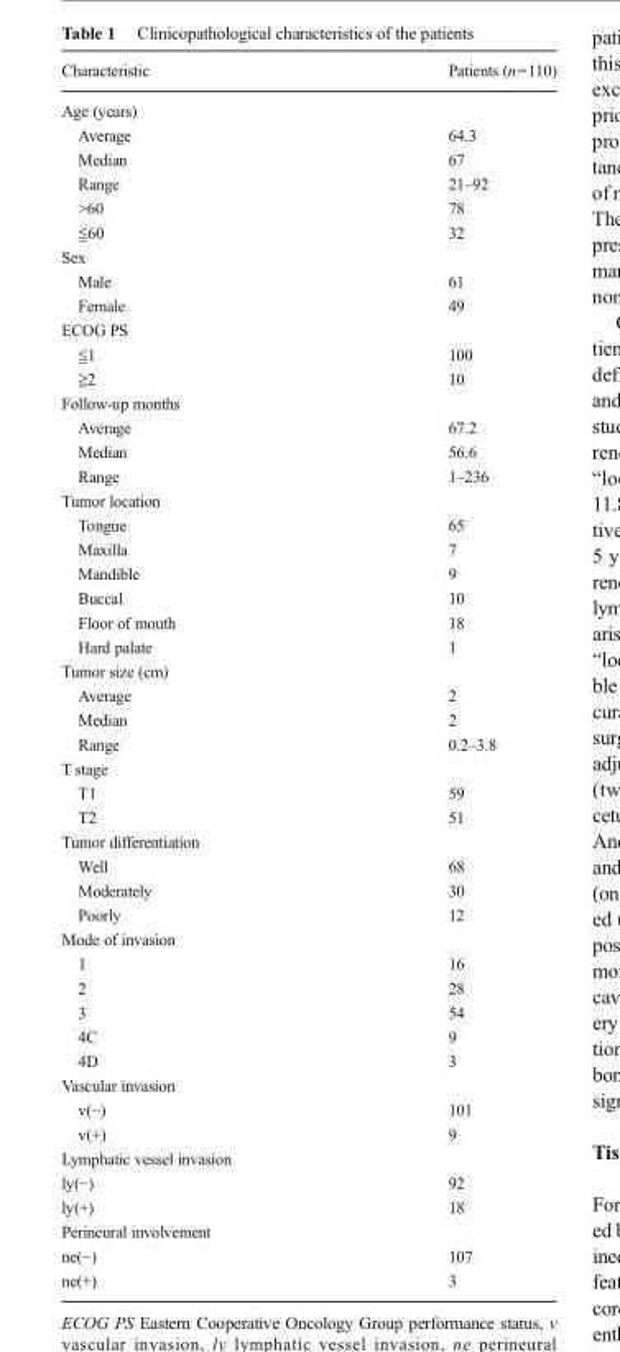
<table><thead><tr><td>Characteristic</td><td>Patients (n=110)</td></tr></thead><tbody><tr><td colspan="2">Age (years)</td></tr><tr><td>Average</td><td>64.3</td></tr><tr><td>Median</td><td>67</td></tr><tr><td>Range</td><td>21–92</td></tr><tr><td>&gt;60</td><td>78</td></tr><tr><td>≦60</td><td>32</td></tr><tr><td colspan="2">Sex</td></tr><tr><td>Male</td><td>61</td></tr><tr><td>Female</td><td>49</td></tr><tr><td colspan="2">ECOG PS</td></tr><tr><td>≦1</td><td>100</td></tr><tr><td>≧2</td><td>10</td></tr><tr><td colspan="2">Follow-up months</td></tr><tr><td>Average</td><td>67.2</td></tr><tr><td>Median</td><td>56.6</td></tr><tr><td>Range</td><td>1–236</td></tr><tr><td colspan="2">Tumor location</td></tr><tr><td>Tongue</td><td>65</td></tr><tr><td>Maxilla</td><td>7</td></tr><tr><td>Mandible</td><td>9</td></tr><tr><td>Buccal</td><td>10</td></tr><tr><td>Floor of mouth</td><td>18</td></tr><tr><td>Hard palate</td><td>1</td></tr><tr><td colspan="2">Tumor size (cm)</td></tr><tr><td>Average</td><td>2</td></tr><tr><td>Median</td><td>2</td></tr><tr><td>Range</td><td>0.2–3.8</td></tr><tr><td colspan="2">T stage</td></tr><tr><td>T1</td><td>59</td></tr><tr><td>T2</td><td>51</td></tr><tr><td colspan="2">Tumor differentiation</td></tr><tr><td>Well</td><td>68</td></tr><tr><td>Moderately</td><td>30</td></tr><tr><td>Poorly</td><td>12</td></tr><tr><td colspan="2">Mode of invasion</td></tr><tr><td>1</td><td>16</td></tr><tr><td>2</td><td>28</td></tr><tr><td>3</td><td>54</td></tr><tr><td>4C</td><td>9</td></tr><tr><td>4D</td><td>3</td></tr><tr><td colspan="2">Vascular invasion</td></tr><tr><td>v(−)</td><td>101</td></tr><tr><td>v(+)</td><td>9</td></tr><tr><td colspan="2">Lymphatic vessel invasion</td></tr><tr><td>ly(−)</td><td>92</td></tr><tr><td>ly(+)</td><td>18</td></tr><tr><td colspan="2">Perineural involvement</td></tr><tr><td>ne(−)</td><td>107</td></tr><tr><td>ne(+)</td><td>3</td></tr></tbody></table>